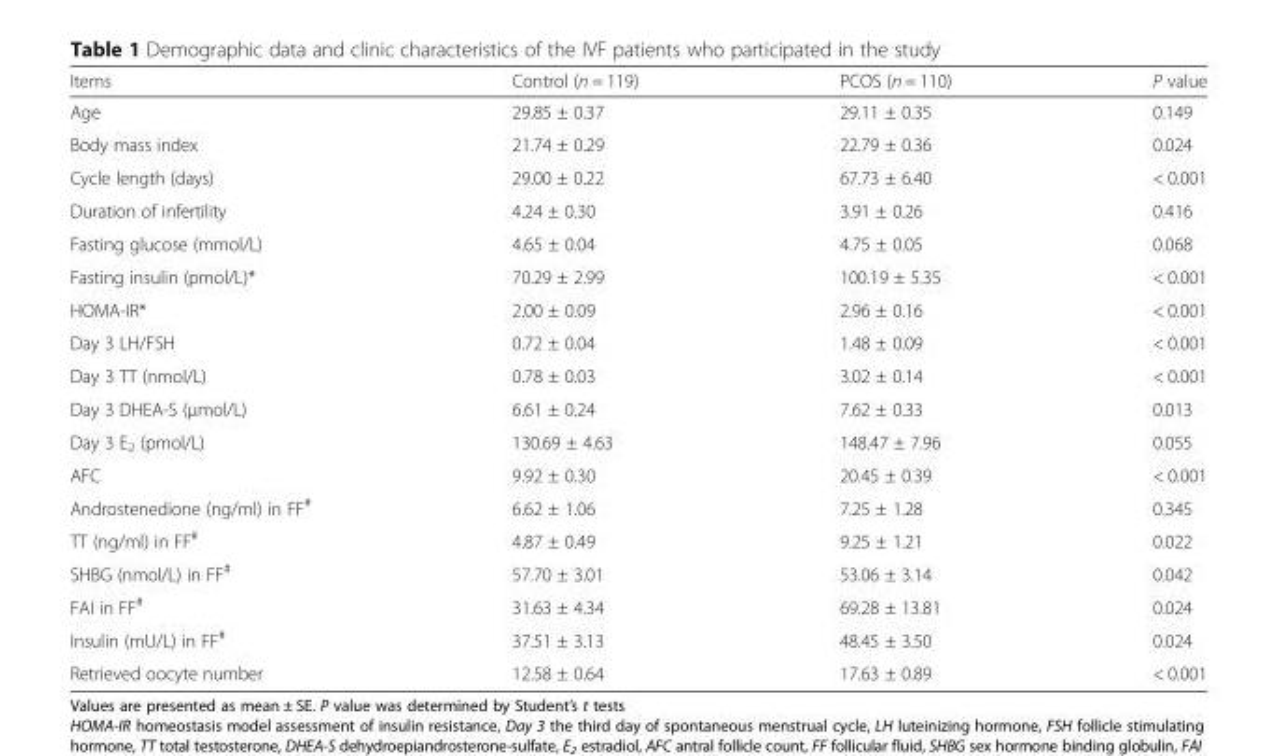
<table><thead><tr><td>Items</td><td>Control (n = 119)</td><td>PCOS (n = 110)</td><td>P value</td></tr></thead><tbody><tr><td>Age</td><td>29.85 ± 0.37</td><td>29.11 ± 0.35</td><td>0.149</td></tr><tr><td>Body mass index</td><td>21.74 ± 0.29</td><td>22.79 ± 0.36</td><td>0.024</td></tr><tr><td>Cycle length (days)</td><td>29.00 ± 0.22</td><td>67.73 ± 6.40</td><td>&lt; 0.001</td></tr><tr><td>Duration of infertility</td><td>4.24 ± 0.30</td><td>3.91 ± 0.26</td><td>0.416</td></tr><tr><td>Fasting glucose (mmol/L)</td><td>4.65 ± 0.04</td><td>4.75 ± 0.05</td><td>0.068</td></tr><tr><td>Fasting insulin (pmol/L)*</td><td>70.29 ± 2.99</td><td>100.19 ± 5.35</td><td>&lt; 0.001</td></tr><tr><td>HOMA-IR*</td><td>2.00 ± 0.09</td><td>2.96 ± 0.16</td><td>&lt; 0.001</td></tr><tr><td>Day 3 LH/FSH</td><td>0.72 ± 0.04</td><td>1.48 ± 0.09</td><td>&lt; 0.001</td></tr><tr><td>Day 3 TT (nmol/L)</td><td>0.78 ± 0.03</td><td>3.02 ± 0.14</td><td>&lt; 0.001</td></tr><tr><td>Day 3 DHEA-S (μmol/L)</td><td>6.61 ± 0.24</td><td>7.62 ± 0.33</td><td>0.013</td></tr><tr><td>Day 3 E<sub>2</sub> (pmol/L)</td><td>130.69 ± 4.63</td><td>148.47 ± 7.96</td><td>0.055</td></tr><tr><td>AFC</td><td>9.92 ± 0.30</td><td>20.45 ± 0.39</td><td>&lt; 0.001</td></tr><tr><td>Androstenedione (ng/ml) in FF<sup>#</sup></td><td>6.62 ± 1.06</td><td>7.25 ± 1.28</td><td>0.345</td></tr><tr><td>TT (ng/ml) in FF<sup>#</sup></td><td>4.87 ± 0.49</td><td>9.25 ± 1.21</td><td>0.022</td></tr><tr><td>SHBG (nmol/L) in FF<sup>#</sup></td><td>57.70 ± 3.01</td><td>53.06 ± 3.14</td><td>0.042</td></tr><tr><td>FAI in FF<sup>#</sup></td><td>31.63 ± 4.34</td><td>69.28 ± 13.81</td><td>0.024</td></tr><tr><td>Insulin (mU/L) in FF<sup>#</sup></td><td>37.51 ± 3.13</td><td>48.45 ± 3.50</td><td>0.024</td></tr><tr><td>Retrieved oocyte number</td><td>12.58 ± 0.64</td><td>17.63 ± 0.89</td><td>&lt; 0.001</td></tr></tbody></table>